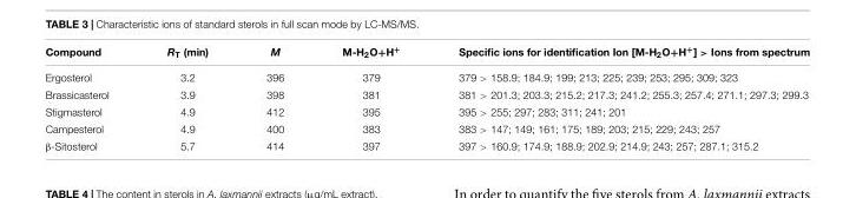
<table><thead><tr><td>Compound</td><td>R<sub>T</sub> (min)</td><td>M</td><td>M-H<sub>2</sub>O+H<sup>+</sup></td><td>Specific ions for identification Ion [M-H<sub>2</sub>O+H<sup>+</sup>] &gt; Ions from spectrum</td></tr></thead><tbody><tr><td>Ergosterol</td><td>3.2</td><td>396</td><td>379</td><td>379 &gt; 158.9; 184.9; 199; 213; 225; 239; 253; 295; 309; 323</td></tr><tr><td>Brassicasterol</td><td>3.9</td><td>398</td><td>381</td><td>381 &gt; 201.3; 203.3; 215.2; 217.3; 241.2; 255.3; 257.4; 271.1; 297.3; 299.3</td></tr><tr><td>Stigmasterol</td><td>4.9</td><td>412</td><td>395</td><td>395 &gt; 255; 297; 283; 311; 241; 201</td></tr><tr><td>Campesterol</td><td>4.9</td><td>400</td><td>383</td><td>383 &gt; 147; 149; 161; 175; 189; 203; 215; 229; 243; 257</td></tr><tr><td>β-Sitosterol</td><td>5.7</td><td>414</td><td>397</td><td>397 &gt; 160.9; 174.9; 188.9; 202.9; 214.9; 243; 257; 287.1; 315.2</td></tr></tbody></table>